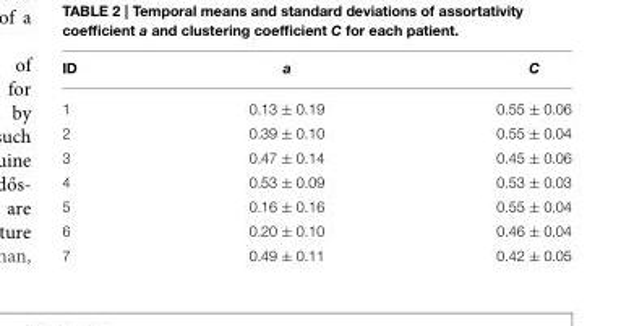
<table><thead><tr><td>ID</td><td>a</td><td>C</td></tr></thead><tbody><tr><td>1</td><td>0.13 ± 0.19</td><td>0.55 ± 0.06</td></tr><tr><td>2</td><td>0.39 ± 0.10</td><td>0.55 ± 0.04</td></tr><tr><td>3</td><td>0.47 ± 0.14</td><td>0.45 ± 0.06</td></tr><tr><td>4</td><td>0.53 ± 0.09</td><td>0.53 ± 0.03</td></tr><tr><td>5</td><td>0.16 ± 0.16</td><td>0.55 ± 0.04</td></tr><tr><td>6</td><td>0.20 ± 0.10</td><td>0.46 ± 0.04</td></tr><tr><td>7</td><td>0.49 ± 0.11</td><td>0.42 ± 0.05</td></tr></tbody></table>